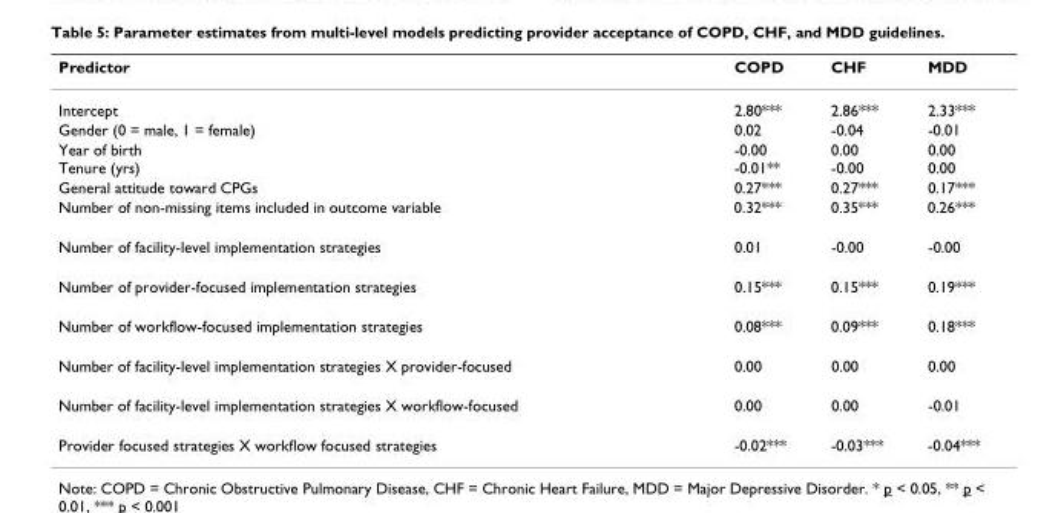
<table><thead><tr><td>Predictor</td><td>COPD</td><td>CHF</td><td>MDD</td></tr></thead><tbody><tr><td>Intercept</td><td>2.80***</td><td>2.86***</td><td>2.33***</td></tr><tr><td>Gender (0 = male, 1 = female)</td><td>0.02</td><td>-0.04</td><td>-0.01</td></tr><tr><td>Year of birth Tenure (yrs)</td><td>-0.00 -0.01**</td><td>0.00 -0.00</td><td>0.00 0.00</td></tr><tr><td>General attitude toward CPGs</td><td>0.27***</td><td>0.27***</td><td>0.17***</td></tr><tr><td>Number of non-missing items included in outcome variable</td><td>0.32***</td><td>0.35***</td><td>0.26***</td></tr><tr><td>Number of facility-level implementation strategies</td><td>0.01</td><td>-0.00</td><td>-0.00</td></tr><tr><td>Number of provider-focused implementation strategies</td><td>0.15***</td><td>0.15***</td><td>0.19***</td></tr><tr><td>Number of workflow-focused implementation strategies</td><td>0.08***</td><td>0.09***</td><td>0.18***</td></tr><tr><td>Number of facility-level implementation strategies X provider-focused</td><td>0.00</td><td>0.00</td><td>0.00</td></tr><tr><td>Number of facility-level implementation strategies X workflow-focused</td><td>0.00</td><td>0.00</td><td>-0.01</td></tr><tr><td>Provider focused strategies X workflow focused strategies</td><td>-0.02***</td><td>-0.03***</td><td>-0.04***</td></tr></tbody></table>